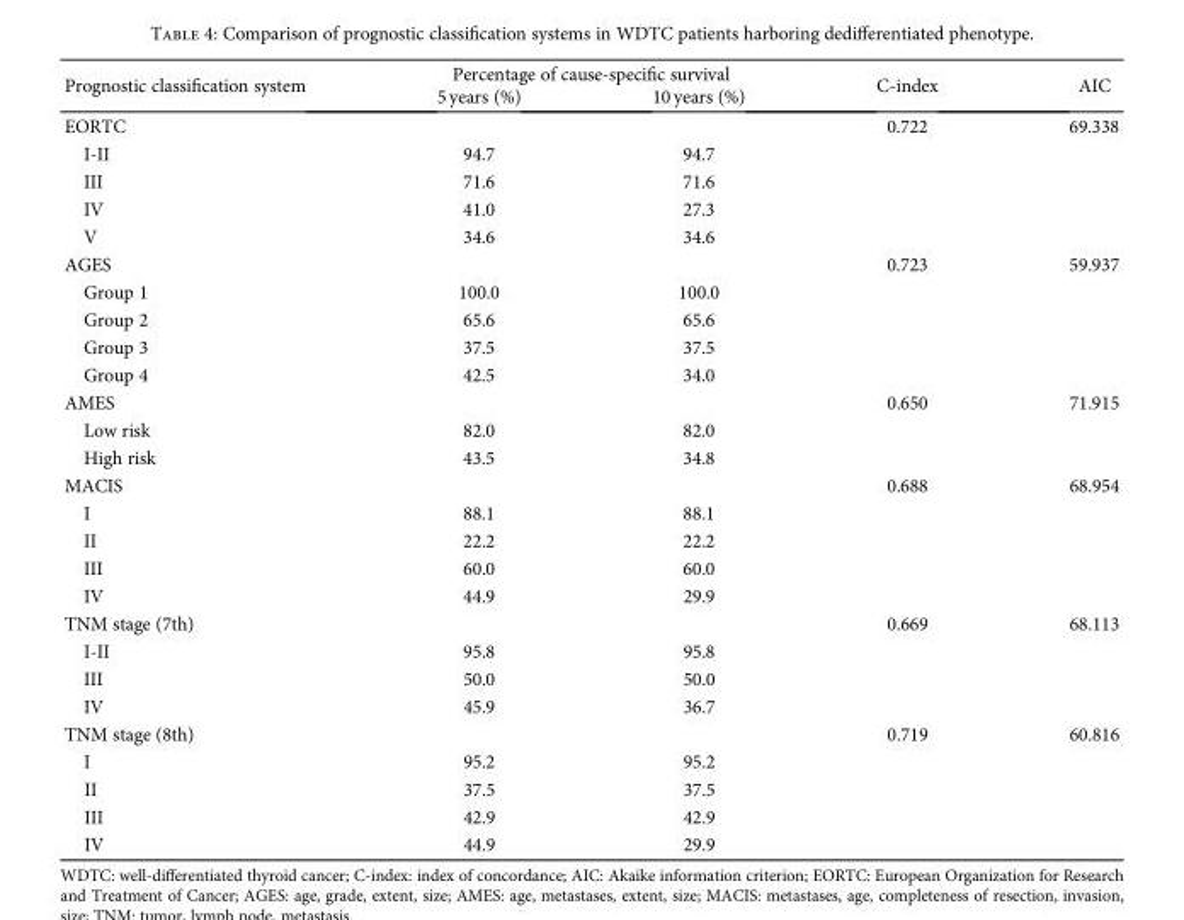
<table><thead><tr><td rowspan="2">Prognostic classification system</td><td colspan="2">Percentage of cause-specific survival</td><td rowspan="2">C-index</td><td rowspan="2">AIC</td></tr><tr><td>5 years (%)</td><td>10 years (%)</td></tr></thead><tbody><tr><td>EORTC</td><td></td><td></td><td>0.722</td><td>69.338</td></tr><tr><td>I-II</td><td>94.7</td><td>94.7</td><td></td><td></td></tr><tr><td>III</td><td>71.6</td><td>71.6</td><td></td><td></td></tr><tr><td>IV</td><td>41.0</td><td>27.3</td><td></td><td></td></tr><tr><td>V</td><td>34.6</td><td>34.6</td><td></td><td></td></tr><tr><td>AGES</td><td></td><td></td><td>0.723</td><td>59.937</td></tr><tr><td>Group 1</td><td>100.0</td><td>100.0</td><td></td><td></td></tr><tr><td>Group 2</td><td>65.6</td><td>65.6</td><td></td><td></td></tr><tr><td>Group 3</td><td>37.5</td><td>37.5</td><td></td><td></td></tr><tr><td>Group 4</td><td>42.5</td><td>34.0</td><td></td><td></td></tr><tr><td>AMES</td><td></td><td></td><td>0.650</td><td>71.915</td></tr><tr><td>Low risk</td><td>82.0</td><td>82.0</td><td></td><td></td></tr><tr><td>High risk</td><td>43.5</td><td>34.8</td><td></td><td></td></tr><tr><td>MACIS</td><td></td><td></td><td>0.688</td><td>68.954</td></tr><tr><td>I</td><td>88.1</td><td>88.1</td><td></td><td></td></tr><tr><td>II</td><td>22.2</td><td>22.2</td><td></td><td></td></tr><tr><td>III</td><td>60.0</td><td>60.0</td><td></td><td></td></tr><tr><td>IV</td><td>44.9</td><td>29.9</td><td></td><td></td></tr><tr><td>TNM stage (7th)</td><td></td><td></td><td>0.669</td><td>68.113</td></tr><tr><td>I-II</td><td>95.8</td><td>95.8</td><td></td><td></td></tr><tr><td>III</td><td>50.0</td><td>50.0</td><td></td><td></td></tr><tr><td>IV</td><td>45.9</td><td>36.7</td><td></td><td></td></tr><tr><td>TNM stage (8th)</td><td></td><td></td><td>0.719</td><td>60.816</td></tr><tr><td>I</td><td>95.2</td><td>95.2</td><td></td><td></td></tr><tr><td>II</td><td>37.5</td><td>37.5</td><td></td><td></td></tr><tr><td>III</td><td>42.9</td><td>42.9</td><td></td><td></td></tr><tr><td>IV</td><td>44.9</td><td>29.9</td><td></td><td></td></tr></tbody></table>